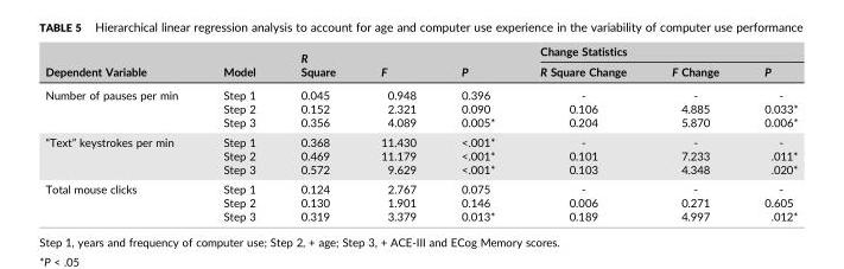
<table><thead><tr><td rowspan="2">Dependent Variable</td><td rowspan="2">Model</td><td rowspan="2">R Square</td><td rowspan="2">F</td><td rowspan="2">P</td><td colspan="3">Change Statistics</td></tr><tr><td>R Square Change</td><td>F Change</td><td>P</td></tr></thead><tbody><tr><td rowspan="3">Number of pauses per min</td><td>Step 1</td><td>0.045</td><td>0.948</td><td>0.396</td><td>‐</td><td>‐</td><td>‐</td></tr><tr><td>Step 2</td><td>0.152</td><td>2.321</td><td>0.090</td><td>0.106</td><td>4.885</td><td>0.033*</td></tr><tr><td>Step 3</td><td>0.356</td><td>4.089</td><td>0.005*</td><td>0.204</td><td>5.870</td><td>0.006*</td></tr><tr><td rowspan="3">“Text” keystrokes per min</td><td>Step 1</td><td>0.368</td><td>11.430</td><td>&lt;.001*</td><td>‐</td><td>‐</td><td>‐</td></tr><tr><td>Step 2</td><td>0.469</td><td>11.179</td><td>&lt;.001*</td><td>0.101</td><td>7.233</td><td>.011*</td></tr><tr><td>Step 3</td><td>0.572</td><td>9.629</td><td>&lt;.001*</td><td>0.103</td><td>4.348</td><td>.020*</td></tr><tr><td rowspan="3">Total mouse clicks</td><td>Step 1</td><td>0.124</td><td>2.767</td><td>0.075</td><td>‐</td><td>‐</td><td>‐</td></tr><tr><td>Step 2</td><td>0.130</td><td>1.901</td><td>0.146</td><td>0.006</td><td>0.271</td><td>0.605</td></tr><tr><td>Step 3</td><td>0.319</td><td>3.379</td><td>0.013*</td><td>0.189</td><td>4.997</td><td>.012*</td></tr></tbody></table>